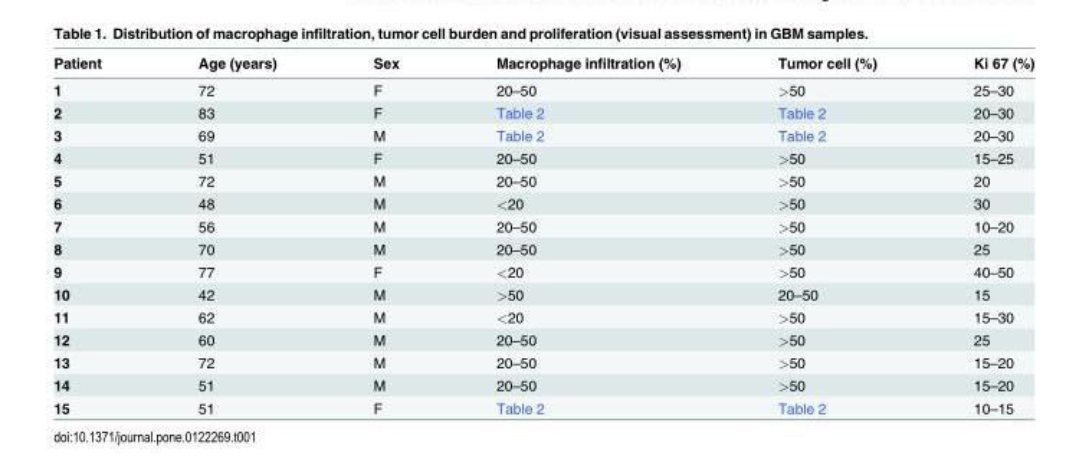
<table><thead><tr><td>Patient</td><td>Age (years)</td><td>Sex</td><td>Macrophage infiltration (%)</td><td>Tumor cell (%)</td><td>Ki 67 (%)</td></tr></thead><tbody><tr><td>1</td><td>72</td><td>F</td><td>20–50</td><td>&gt;50</td><td>25–30</td></tr><tr><td>2</td><td>83</td><td>F</td><td>Table 2</td><td>Table 2</td><td>20–30</td></tr><tr><td>3</td><td>69</td><td>M</td><td>Table 2</td><td>Table 2</td><td>20–30</td></tr><tr><td>4</td><td>51</td><td>F</td><td>20–50</td><td>&gt;50</td><td>15–25</td></tr><tr><td>5</td><td>72</td><td>M</td><td>20–50</td><td>&gt;50</td><td>20</td></tr><tr><td>6</td><td>48</td><td>M</td><td>&lt;20</td><td>&gt;50</td><td>30</td></tr><tr><td>7</td><td>56</td><td>M</td><td>20–50</td><td>&gt;50</td><td>10–20</td></tr><tr><td>8</td><td>70</td><td>M</td><td>20–50</td><td>&gt;50</td><td>25</td></tr><tr><td>9</td><td>77</td><td>F</td><td>&lt;20</td><td>&gt;50</td><td>40–50</td></tr><tr><td>10</td><td>42</td><td>M</td><td>&gt;50</td><td>20–50</td><td>15</td></tr><tr><td>11</td><td>62</td><td>M</td><td>&lt;20</td><td>&gt;50</td><td>15–30</td></tr><tr><td>12</td><td>60</td><td>M</td><td>20–50</td><td>&gt;50</td><td>25</td></tr><tr><td>13</td><td>72</td><td>M</td><td>20–50</td><td>&gt;50</td><td>15–20</td></tr><tr><td>14</td><td>51</td><td>M</td><td>20–50</td><td>&gt;50</td><td>15–20</td></tr><tr><td>15</td><td>51</td><td>F</td><td>Table 2</td><td>Table 2</td><td>10–15</td></tr></tbody></table>